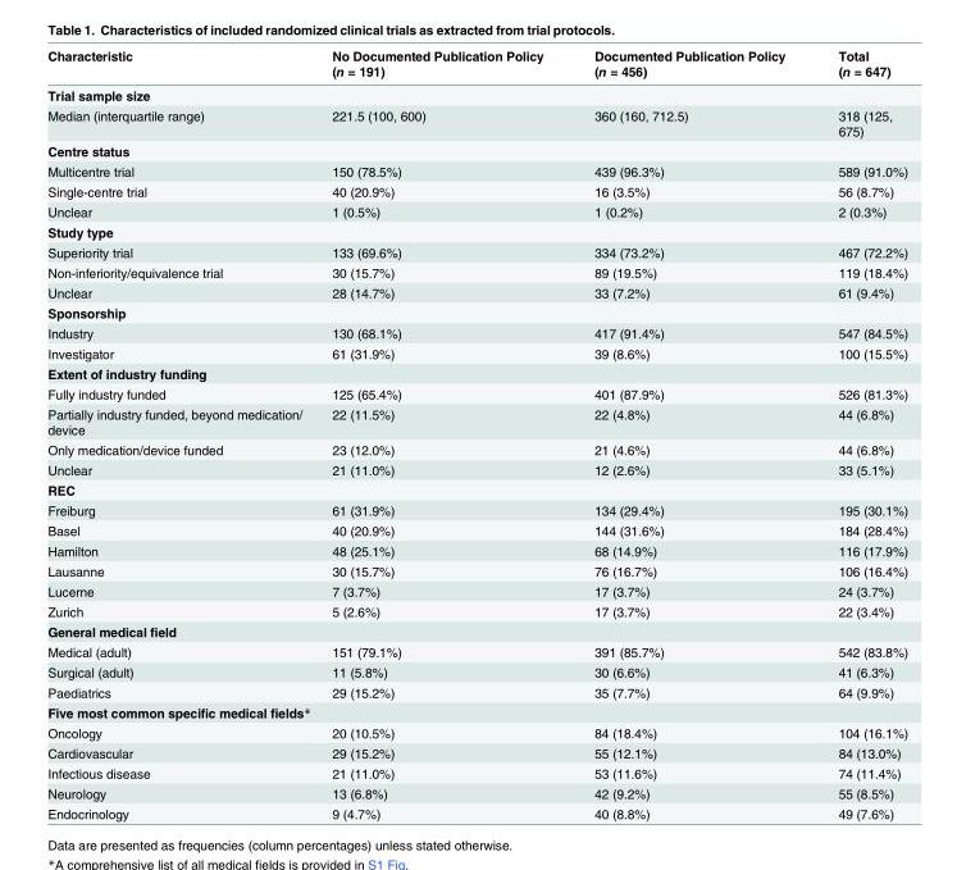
<table><thead><tr><td>Characteristic</td><td>No Documented Publication Policy (n = 191)</td><td>Documented Publication Policy (n = 456)</td><td>Total (n = 647)</td></tr></thead><tbody><tr><td colspan="4">Trial sample size</td></tr><tr><td>Median (interquartile range)</td><td>221.5 (100, 600)</td><td>360 (160, 712.5)</td><td>318 (125, 675)</td></tr><tr><td colspan="4">Centre status</td></tr><tr><td>Multicentre trial</td><td>150 (78.5%)</td><td>439 (96.3%)</td><td>589 (91.0%)</td></tr><tr><td>Single-centre trial</td><td>40 (20.9%)</td><td>16 (3.5%)</td><td>56 (8.7%)</td></tr><tr><td>Unclear</td><td>1 (0.5%)</td><td>1 (0.2%)</td><td>2 (0.3%)</td></tr><tr><td colspan="4">Study type</td></tr><tr><td>Superiority trial</td><td>133 (69.6%)</td><td>334 (73.2%)</td><td>467 (72.2%)</td></tr><tr><td>Non-inferiority/equivalence trial</td><td>30 (15.7%)</td><td>89 (19.5%)</td><td>119 (18.4%)</td></tr><tr><td>Unclear</td><td>28 (14.7%)</td><td>33 (7.2%)</td><td>61 (9.4%)</td></tr><tr><td colspan="4">Sponsorship</td></tr><tr><td>Industry</td><td>130 (68.1%)</td><td>417 (91.4%)</td><td>547 (84.5%)</td></tr><tr><td>Investigator</td><td>61 (31.9%)</td><td>39 (8.6%)</td><td>100 (15.5%)</td></tr><tr><td colspan="4">Extent of industry funding</td></tr><tr><td>Fully industry funded</td><td>125 (65.4%)</td><td>401 (87.9%)</td><td>526 (81.3%)</td></tr><tr><td>Partially industry funded, beyond medication/ device</td><td>22 (11.5%)</td><td>22 (4.8%)</td><td>44 (6.8%)</td></tr><tr><td>Only medication/device funded</td><td>23 (12.0%)</td><td>21 (4.6%)</td><td>44 (6.8%)</td></tr><tr><td>Unclear</td><td>21 (11.0%)</td><td>12 (2.6%)</td><td>33 (5.1%)</td></tr><tr><td colspan="4">REC</td></tr><tr><td>Freiburg</td><td>61 (31.9%)</td><td>134 (29.4%)</td><td>195 (30.1%)</td></tr><tr><td>Basel</td><td>40 (20.9%)</td><td>144 (31.6%)</td><td>184 (28.4%)</td></tr><tr><td>Hamilton</td><td>48 (25.1%)</td><td>68 (14.9%)</td><td>116 (17.9%)</td></tr><tr><td>Lausanne</td><td>30 (15.7%)</td><td>76 (16.7%)</td><td>106 (16.4%)</td></tr><tr><td>Lucerne</td><td>7 (3.7%)</td><td>17 (3.7%)</td><td>24 (3.7%)</td></tr><tr><td>Zurich</td><td>5 (2.6%)</td><td>17 (3.7%)</td><td>22 (3.4%)</td></tr><tr><td colspan="4">General medical field</td></tr><tr><td>Medical (adult)</td><td>151 (79.1%)</td><td>391 (85.7%)</td><td>542 (83.8%)</td></tr><tr><td>Surgical (adult)</td><td>11 (5.8%)</td><td>30 (6.6%)</td><td>41 (6.3%)</td></tr><tr><td>Paediatrics</td><td>29 (15.2%)</td><td>35 (7.7%)</td><td>64 (9.9%)</td></tr><tr><td colspan="4">Five most common specific medical fields*</td></tr><tr><td>Oncology</td><td>20 (10.5%)</td><td>84 (18.4%)</td><td>104 (16.1%)</td></tr><tr><td>Cardiovascular</td><td>29 (15.2%)</td><td>55 (12.1%)</td><td>84 (13.0%)</td></tr><tr><td>Infectious disease</td><td>21 (11.0%)</td><td>53 (11.6%)</td><td>74 (11.4%)</td></tr><tr><td>Neurology</td><td>13 (6.8%)</td><td>42 (9.2%)</td><td>55 (8.5%)</td></tr><tr><td>Endocrinology</td><td>9 (4.7%)</td><td>40 (8.8%)</td><td>49 (7.6%)</td></tr></tbody></table>